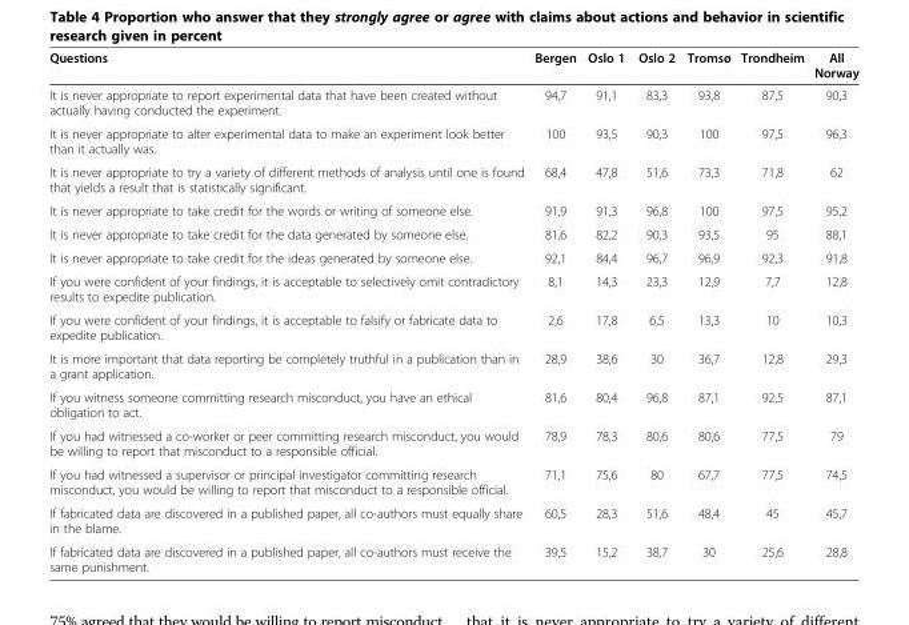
<table><thead><tr><td>Questions</td><td>Bergen</td><td>Oslo 1</td><td>Oslo 2</td><td>Tromsø</td><td>Trondheim</td><td>All Norway</td></tr></thead><tbody><tr><td>It is never appropriate to report experimental data that have been created without actually having conducted the experiment.</td><td>94,7</td><td>91,1</td><td>83,3</td><td>93,8</td><td>87,5</td><td>90,3</td></tr><tr><td>It is never appropriate to alter experimental data to make an experiment look better than it actually was.</td><td>100</td><td>93,5</td><td>90,3</td><td>100</td><td>97,5</td><td>96,3</td></tr><tr><td>It is never appropriate to try a variety of different methods of analysis until one is found that yields a result that is statistically significant.</td><td>68,4</td><td>47,8</td><td>51,6</td><td>73,3</td><td>71,8</td><td>62</td></tr><tr><td>It is never appropriate to take credit for the words or writing of someone else.</td><td>91,9</td><td>91,3</td><td>96,8</td><td>100</td><td>97,5</td><td>95,2</td></tr><tr><td>It is never appropriate to take credit for the data generated by someone else.</td><td>81,6</td><td>82,2</td><td>90,3</td><td>93,5</td><td>95</td><td>88,1</td></tr><tr><td>It is never appropriate to take credit for the ideas generated by someone else.</td><td>92,1</td><td>84,4</td><td>96,7</td><td>96,9</td><td>92,3</td><td>91,8</td></tr><tr><td>If you were confident of your findings, it is acceptable to selectively omit contradictory results to expedite publication.</td><td>8,1</td><td>14,3</td><td>23,3</td><td>12,9</td><td>7,7</td><td>12,8</td></tr><tr><td>If you were confident of your findings, it is acceptable to falsify or fabricate data to expedite publication.</td><td>2,6</td><td>17,8</td><td>6,5</td><td>13,3</td><td>10</td><td>10,3</td></tr><tr><td>It is more important that data reporting be completely truthful in a publication than in a grant application.</td><td>28,9</td><td>38,6</td><td>30</td><td>36,7</td><td>12,8</td><td>29,3</td></tr><tr><td>If you witness someone committing research misconduct, you have an ethical obligation to act.</td><td>81,6</td><td>80,4</td><td>96,8</td><td>87,1</td><td>92,5</td><td>87,1</td></tr><tr><td>If you had witnessed a co-worker or peer committing research misconduct, you would be willing to report that misconduct to a responsible official.</td><td>78,9</td><td>78,3</td><td>80,6</td><td>80,6</td><td>77,5</td><td>79</td></tr><tr><td>If you had witnessed a supervisor or principal investigator committing research misconduct, you would be willing to report that misconduct to a responsible official.</td><td>71,1</td><td>75,6</td><td>80</td><td>67,7</td><td>77,5</td><td>74,5</td></tr><tr><td>If fabricated data are discovered in a published paper, all co-authors must equally share in the blame.</td><td>60,5</td><td>28,3</td><td>51,6</td><td>48,4</td><td>45</td><td>45,7</td></tr><tr><td>If fabricated data are discovered in a published paper, all co-authors must receive the same punishment.</td><td>39,5</td><td>15,2</td><td>38,7</td><td>30</td><td>25,6</td><td>28,8</td></tr></tbody></table>